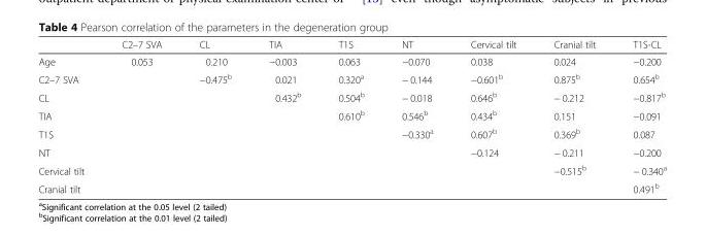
<table><thead><tr><td></td><td>C2–7 SVA</td><td>CL</td><td>TIA</td><td>T1S</td><td>NT</td><td>Cervical tilt</td><td>Cranial tilt</td><td>T1S-CL</td></tr></thead><tbody><tr><td>Age</td><td>0.053</td><td>0.210</td><td>−0.003</td><td>0.063</td><td>−0.070</td><td>0.038</td><td>0.024</td><td>−0.200</td></tr><tr><td>C2–7 SVA</td><td></td><td>−0.475<sup>b</sup></td><td>0.021</td><td>0.320<sup>a</sup></td><td>− 0.144</td><td>−0.601<sup>b</sup></td><td>0.875<sup>b</sup></td><td>0.654<sup>b</sup></td></tr><tr><td>CL</td><td></td><td></td><td>0.432<sup>b</sup></td><td>0.504<sup>b</sup></td><td>− 0.018</td><td>0.646<sup>b</sup></td><td>− 0.212</td><td>−0.817<sup>b</sup></td></tr><tr><td>TIA</td><td></td><td></td><td></td><td>0.610<sup>b</sup></td><td>0.546<sup>b</sup></td><td>0.434<sup>b</sup></td><td>0.151</td><td>−0.091</td></tr><tr><td>T1S</td><td></td><td></td><td></td><td></td><td>−0.330<sup>a</sup></td><td>0.607<sup>b</sup></td><td>0.369<sup>b</sup></td><td>0.087</td></tr><tr><td>NT</td><td></td><td></td><td></td><td></td><td></td><td>−0.124</td><td>− 0.211</td><td>−0.200</td></tr><tr><td>Cervical tilt</td><td></td><td></td><td></td><td></td><td></td><td></td><td>−0.515<sup>b</sup></td><td>− 0.340<sup>a</sup></td></tr><tr><td>Cranial tilt</td><td></td><td></td><td></td><td></td><td></td><td></td><td></td><td>0.491<sup>b</sup></td></tr></tbody></table>